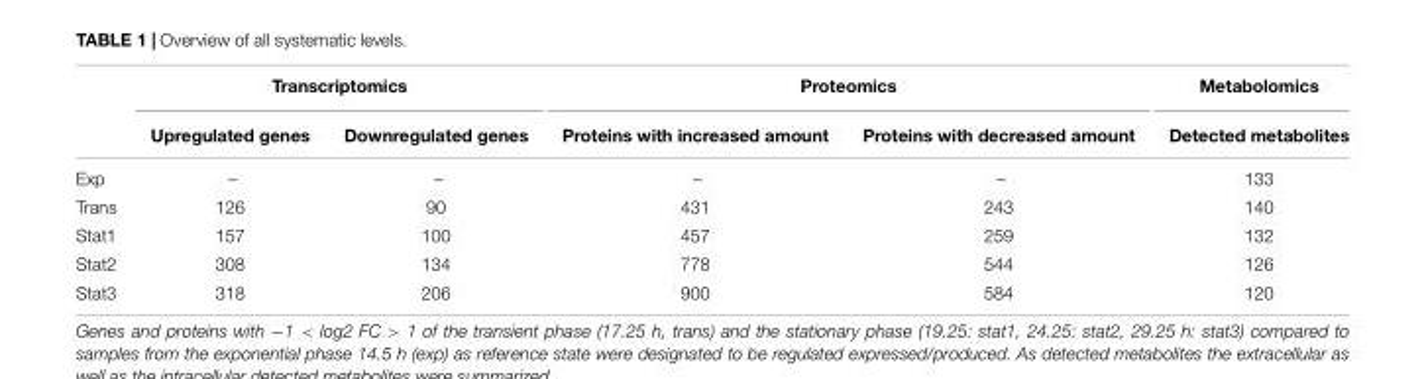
<table><thead><tr><td rowspan="2"></td><td colspan="2">Transcriptomics</td><td colspan="2">Proteomics</td><td rowspan="2">Metabolomics Detected metabolites</td></tr><tr><td>Upregulated genes</td><td>Downregulated genes</td><td>Proteins with increased amount</td><td>Proteins with decreased amount</td></tr></thead><tbody><tr><td>Exp</td><td>–</td><td>–</td><td>–</td><td>–</td><td>133</td></tr><tr><td>Trans</td><td>126</td><td>90</td><td>431</td><td>243</td><td>140</td></tr><tr><td>Stat1</td><td>157</td><td>100</td><td>457</td><td>259</td><td>132</td></tr><tr><td>Stat2</td><td>308</td><td>134</td><td>778</td><td>544</td><td>126</td></tr><tr><td>Stat3</td><td>318</td><td>206</td><td>900</td><td>584</td><td>120</td></tr></tbody></table>